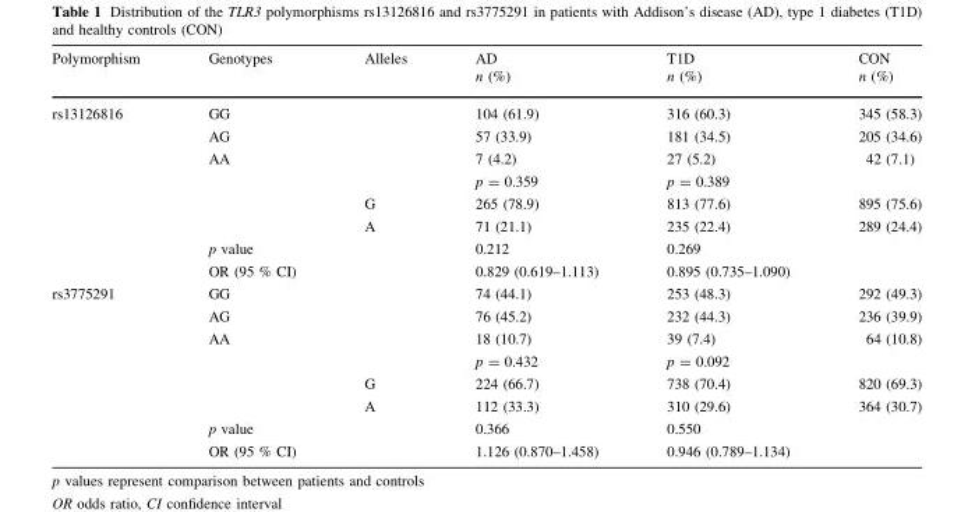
<table><thead><tr><td>Polymorphism</td><td>Genotypes</td><td>Alleles</td><td>AD n (%)</td><td>T1D n (%)</td><td>CON n (%)</td></tr></thead><tbody><tr><td rowspan="8">rs13126816</td><td>GG</td><td></td><td>104 (61.9)</td><td>316 (60.3)</td><td>345 (58.3)</td></tr><tr><td>AG</td><td></td><td>57 (33.9)</td><td>181 (34.5)</td><td>205 (34.6)</td></tr><tr><td>AA</td><td></td><td>7 (4.2)</td><td>27 (5.2)</td><td>42 (7.1)</td></tr><tr><td></td><td></td><td>p = 0.359</td><td>p = 0.389</td><td></td></tr><tr><td></td><td>G</td><td>265 (78.9)</td><td>813 (77.6)</td><td>895 (75.6)</td></tr><tr><td></td><td>A</td><td>71 (21.1)</td><td>235 (22.4)</td><td>289 (24.4)</td></tr><tr><td>p value</td><td></td><td>0.212</td><td>0.269</td><td></td></tr><tr><td>OR (95 % CI)</td><td></td><td>0.829 (0.619–1.113)</td><td>0.895 (0.735–1.090)</td><td></td></tr><tr><td rowspan="8">rs3775291</td><td>GG</td><td></td><td>74 (44.1)</td><td>253 (48.3)</td><td>292 (49.3)</td></tr><tr><td>AG</td><td></td><td>76 (45.2)</td><td>232 (44.3)</td><td>236 (39.9)</td></tr><tr><td>AA</td><td></td><td>18 (10.7)</td><td>39 (7.4)</td><td>64 (10.8)</td></tr><tr><td></td><td></td><td>p = 0.432</td><td>p = 0.092</td><td></td></tr><tr><td></td><td>G</td><td>224 (66.7)</td><td>738 (70.4)</td><td>820 (69.3)</td></tr><tr><td></td><td>A</td><td>112 (33.3)</td><td>310 (29.6)</td><td>364 (30.7)</td></tr><tr><td>p value</td><td></td><td>0.366</td><td>0.550</td><td></td></tr><tr><td>OR (95 % CI)</td><td></td><td>1.126 (0.870–1.458)</td><td>0.946 (0.789–1.134)</td><td></td></tr></tbody></table>